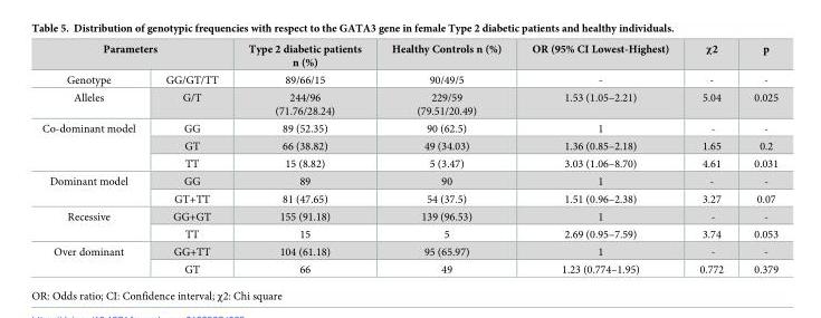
<table><thead><tr><td colspan="2">Parameters</td><td rowspan="2">Type 2 diabetic patients n (%) 89/66/15</td><td rowspan="2">Healthy Controls n (%) 90/49/5</td><td rowspan="2">OR (95% CI Lowest-Highest) -</td><td rowspan="2">χ2 -</td><td rowspan="2">p -</td></tr><tr><td>Genotype</td><td>GG/GT/TT</td></tr></thead><tbody><tr><td>Alleles</td><td>G/T</td><td>244/96 (71.76/28.24)</td><td>229/59 (79.51/20.49)</td><td>1.53 (1.05–2.21)</td><td>5.04</td><td>0.025</td></tr><tr><td rowspan="3">Co-dominant model</td><td>GG</td><td>89 (52.35)</td><td>90 (62.5)</td><td>1</td><td>-</td><td>-</td></tr><tr><td>GT</td><td>66 (38.82)</td><td>49 (34.03)</td><td>1.36 (0.85–2.18)</td><td>1.65</td><td>0.2</td></tr><tr><td>TT</td><td>15 (8.82)</td><td>5 (3.47)</td><td>3.03 (1.06–8.70)</td><td>4.61</td><td>0.031</td></tr><tr><td rowspan="2">Dominant model</td><td>GG</td><td>89</td><td>90</td><td>1</td><td>-</td><td>-</td></tr><tr><td>GT+TT</td><td>81 (47.65)</td><td>54 (37.5)</td><td>1.51 (0.96–2.38)</td><td>3.27</td><td>0.07</td></tr><tr><td rowspan="2">Recessive</td><td>GG+GT</td><td>155 (91.18)</td><td>139 (96.53)</td><td>1</td><td>-</td><td>-</td></tr><tr><td>TT</td><td>15</td><td>5</td><td>2.69 (0.95–7.59)</td><td>3.74</td><td>0.053</td></tr><tr><td rowspan="2">Over dominant</td><td>GG+TT</td><td>104 (61.18)</td><td>95 (65.97)</td><td>1</td><td>-</td><td>-</td></tr><tr><td>GT</td><td>66</td><td>49</td><td>1.23 (0.774–1.95)</td><td>0.772</td><td>0.379</td></tr></tbody></table>